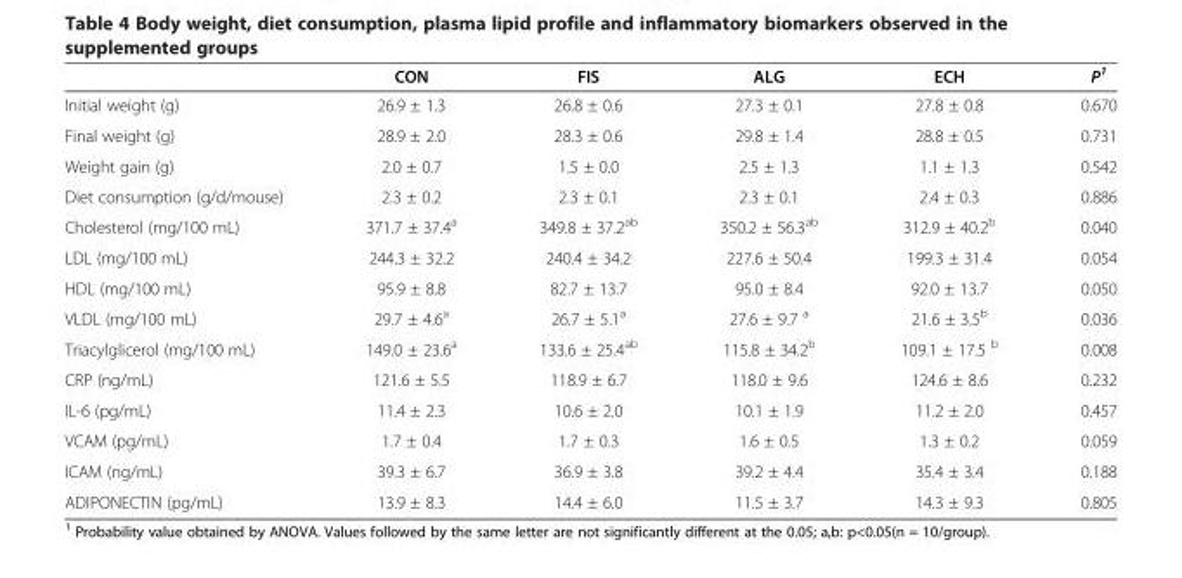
<table><thead><tr><td></td><td>CON</td><td>FIS</td><td>ALG</td><td>ECH</td><td>P<sup>1</sup></td></tr></thead><tbody><tr><td>Initial weight (g)</td><td>26.9 ± 1.3</td><td>26.8 ± 0.6</td><td>27.3 ± 0.1</td><td>27.8 ± 0.8</td><td>0.670</td></tr><tr><td>Final weight (g)</td><td>28.9 ± 2.0</td><td>28.3 ± 0.6</td><td>29.8 ± 1.4</td><td>28.8 ± 0.5</td><td>0.731</td></tr><tr><td>Weight gain (g)</td><td>2.0 ± 0.7</td><td>1.5 ± 0.0</td><td>2.5 ± 1.3</td><td>1.1 ± 1.3</td><td>0.542</td></tr><tr><td>Diet consumption (g/d/mouse)</td><td>2.3 ± 0.2</td><td>2.3 ± 0.1</td><td>2.3 ± 0.1</td><td>2.4 ± 0.3</td><td>0.886</td></tr><tr><td>Cholesterol (mg/100 mL)</td><td>371.7 ± 37.4<sup>a</sup></td><td>349.8 ± 37.2<sup>ab</sup></td><td>350.2 ± 56.3<sup>ab</sup></td><td>312.9 ± 40.2<sup>b</sup></td><td>0.040</td></tr><tr><td>LDL (mg/100 mL)</td><td>244.3 ± 32.2</td><td>240.4 ± 34.2</td><td>227.6 ± 50.4</td><td>199.3 ± 31.4</td><td>0.054</td></tr><tr><td>HDL (mg/100 mL)</td><td>95.9 ± 8.8</td><td>82.7 ± 13.7</td><td>95.0 ± 8.4</td><td>92.0 ± 13.7</td><td>0.050</td></tr><tr><td>VLDL (mg/100 mL)</td><td>29.7 ± 4.6<sup>a</sup></td><td>26.7 ± 5.1<sup>a</sup></td><td>27.6 ± 9.7 <sup>a</sup></td><td>21.6 ± 3.5<sup>b</sup></td><td>0.036</td></tr><tr><td>Triacylglicerol (mg/100 mL)</td><td>149.0 ± 23.6<sup>a</sup></td><td>133.6 ± 25.4<sup>ab</sup></td><td>115.8 ± 34.2<sup>b</sup></td><td>109.1 ± 17.5 <sup>b</sup></td><td>0.008</td></tr><tr><td>CRP (ng/mL)</td><td>121.6 ± 5.5</td><td>118.9 ± 6.7</td><td>118.0 ± 9.6</td><td>124.6 ± 8.6</td><td>0.232</td></tr><tr><td>IL-6 (pg/mL)</td><td>11.4 ± 2.3</td><td>10.6 ± 2.0</td><td>10.1 ± 1.9</td><td>11.2 ± 2.0</td><td>0.457</td></tr><tr><td>VCAM (pg/mL)</td><td>1.7 ± 0.4</td><td>1.7 ± 0.3</td><td>1.6 ± 0.5</td><td>1.3 ± 0.2</td><td>0.059</td></tr><tr><td>ICAM (ng/mL)</td><td>39.3 ± 6.7</td><td>36.9 ± 3.8</td><td>39.2 ± 4.4</td><td>35.4 ± 3.4</td><td>0.188</td></tr><tr><td>ADIPONECTIN (pg/mL)</td><td>13.9 ± 8.3</td><td>14.4 ± 6.0</td><td>11.5 ± 3.7</td><td>14.3 ± 9.3</td><td>0.805</td></tr></tbody></table>